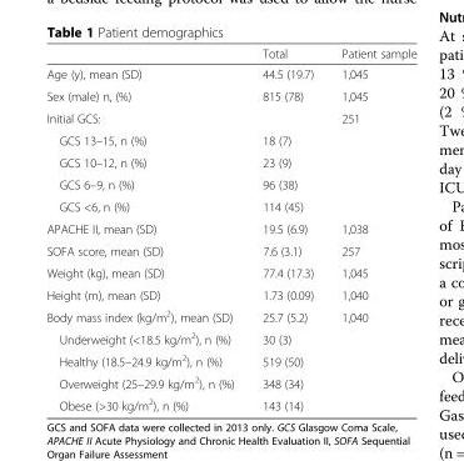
<table><thead><tr><td></td><td>Total</td><td>Patient sample</td></tr></thead><tbody><tr><td>Age (y), mean (SD)</td><td>44.5 (19.7)</td><td>1,045</td></tr><tr><td>Sex (male) n, (%)</td><td>815 (78)</td><td>1,045</td></tr><tr><td colspan="2">Initial GCS:</td><td rowspan="5">251</td></tr><tr><td>GCS 13–15, n (%)</td><td>18 (7)</td></tr><tr><td>GCS 10–12, n (%)</td><td>23 (9)</td></tr><tr><td>GCS 6–9, n (%)</td><td>96 (38)</td></tr><tr><td>GCS &lt;6, n (%)</td><td>114 (45)</td></tr><tr><td>APACHE II, mean (SD)</td><td>19.5 (6.9)</td><td>1,038</td></tr><tr><td>SOFA score, mean (SD)</td><td>7.6 (3.1)</td><td>257</td></tr><tr><td>Weight (kg), mean (SD)</td><td>77.4 (17.3)</td><td>1,045</td></tr><tr><td>Height (m), mean (SD)</td><td>1.73 (0.09)</td><td>1,040</td></tr><tr><td>Body mass index (kg/m<sup>2</sup>), mean (SD)</td><td>25.7 (5.2)</td><td rowspan="5">1,040</td></tr><tr><td>Underweight (&lt;18.5 kg/m<sup>2</sup>), n (%)</td><td>30 (3)</td></tr><tr><td>Healthy (18.5–24.9 kg/m<sup>2</sup>), n (%)</td><td>519 (50)</td></tr><tr><td>Overweight (25–29.9 kg/m<sup>2</sup>), n (%)</td><td>348 (34)</td></tr><tr><td>Obese (&gt;30 kg/m<sup>2</sup>), n (%)</td><td>143 (14)</td></tr></tbody></table>